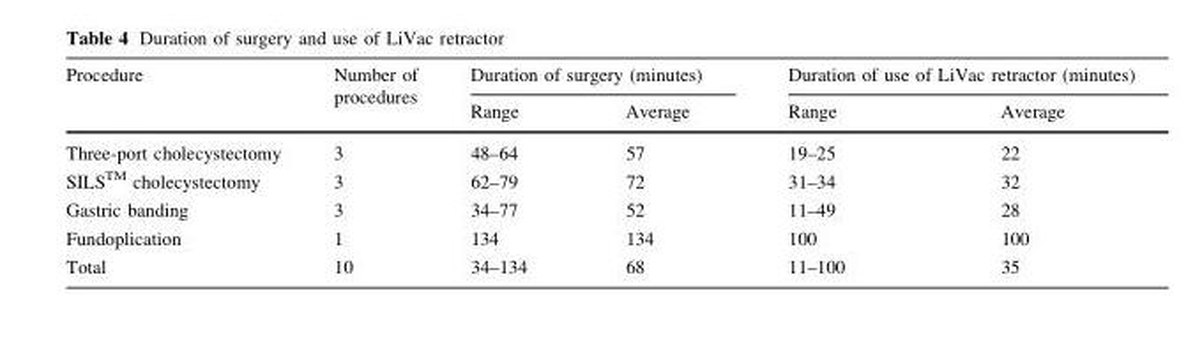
<table><thead><tr><td rowspan="2">Procedure</td><td rowspan="2">Number of procedures</td><td colspan="2">Duration of surgery (minutes)</td><td colspan="2">Duration of use of LiVac retractor (minutes)</td></tr><tr><td>Range</td><td>Average</td><td>Range</td><td>Average</td></tr></thead><tbody><tr><td>Three-port cholecystectomy</td><td>3</td><td>48–64</td><td>57</td><td>19–25</td><td>22</td></tr><tr><td>SILSTM cholecystectomy</td><td>3</td><td>62–79</td><td>72</td><td>31–34</td><td>32</td></tr><tr><td>Gastric banding</td><td>3</td><td>34–77</td><td>52</td><td>11–49</td><td>28</td></tr><tr><td>Fundoplication</td><td>1</td><td>134</td><td>134</td><td>100</td><td>100</td></tr><tr><td>Total</td><td>10</td><td>34–134</td><td>68</td><td>11–100</td><td>35</td></tr></tbody></table>